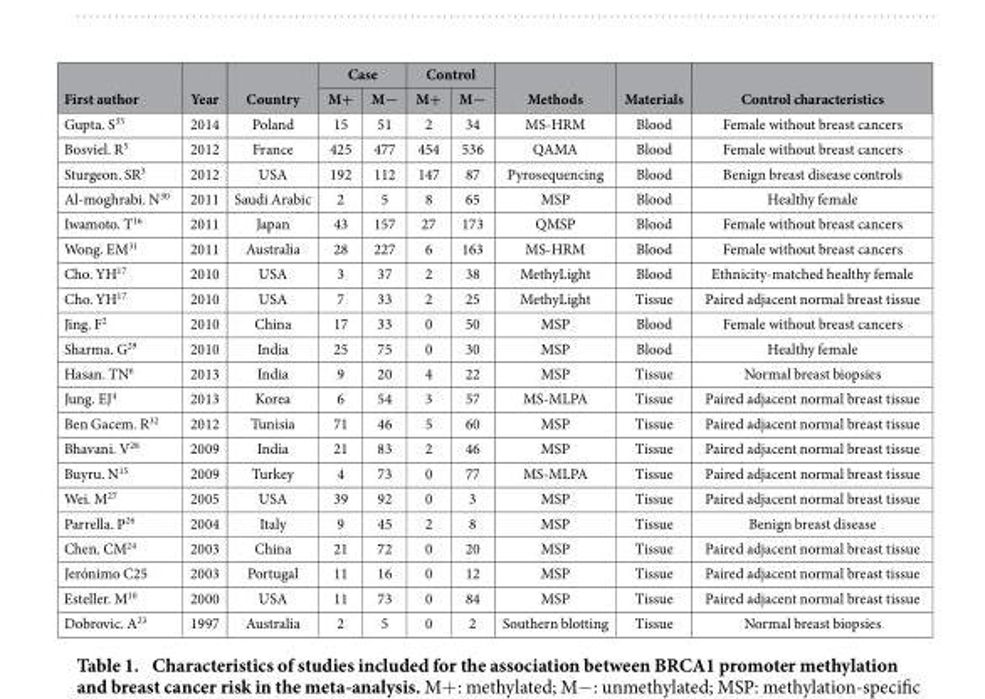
<table><thead><tr><td rowspan="2">First author</td><td rowspan="2">Year</td><td rowspan="2">Country</td><td colspan="2">Case</td><td colspan="2">Control</td><td rowspan="2">Methods</td><td rowspan="2">Materials</td><td rowspan="2">Control characteristics</td></tr><tr><td>M+</td><td>M−</td><td>M+</td><td>M−</td></tr></thead><tbody><tr><td>Gupta. S<sup>33</sup></td><td>2014</td><td>Poland</td><td>15</td><td>51</td><td>2</td><td>34</td><td>MS-HRM</td><td>Blood</td><td>Female without breast cancers</td></tr><tr><td>Bosviel. R<sup>5</sup></td><td>2012</td><td>France</td><td>425</td><td>477</td><td>454</td><td>536</td><td>QAMA</td><td>Blood</td><td>Female without breast cancers</td></tr><tr><td>Sturgeon. SR<sup>3</sup></td><td>2012</td><td>USA</td><td>192</td><td>112</td><td>147</td><td>87</td><td>Pyrosequencing</td><td>Blood</td><td>Benign breast disease controls</td></tr><tr><td>Al-moghrabi. N<sup>30</sup></td><td>2011</td><td>Saudi Arabic</td><td>2</td><td>5</td><td>8</td><td>65</td><td>MSP</td><td>Blood</td><td>Healthy female</td></tr><tr><td>Iwamoto. T<sup>16</sup></td><td>2011</td><td>Japan</td><td>43</td><td>157</td><td>27</td><td>173</td><td>QMSP</td><td>Blood</td><td>Female without breast cancers</td></tr><tr><td>Wong. EM<sup>31</sup></td><td>2011</td><td>Australia</td><td>28</td><td>227</td><td>6</td><td>163</td><td>MS-HRM</td><td>Blood</td><td>Female without breast cancers</td></tr><tr><td>Cho. YH<sup>17</sup></td><td>2010</td><td>USA</td><td>3</td><td>37</td><td>2</td><td>38</td><td>MethyLight</td><td>Blood</td><td>Ethnicity-matched healthy female</td></tr><tr><td>Cho. YH<sup>17</sup></td><td>2010</td><td>USA</td><td>7</td><td>33</td><td>2</td><td>25</td><td>MethyLight</td><td>Tissue</td><td>Paired adjacent normal breast tissue</td></tr><tr><td>Jing. F<sup>2</sup></td><td>2010</td><td>China</td><td>17</td><td>33</td><td>0</td><td>50</td><td>MSP</td><td>Blood</td><td>Female without breast cancers</td></tr><tr><td>Sharma. G<sup>29</sup></td><td>2010</td><td>India</td><td>25</td><td>75</td><td>0</td><td>30</td><td>MSP</td><td>Blood</td><td>Healthy female</td></tr><tr><td>Hasan. TN<sup>6</sup></td><td>2013</td><td>India</td><td>9</td><td>20</td><td>4</td><td>22</td><td>MSP</td><td>Tissue</td><td>Normal breast biopsies</td></tr><tr><td>Jung. EJ<sup>4</sup></td><td>2013</td><td>Korea</td><td>6</td><td>54</td><td>3</td><td>57</td><td>MS-MLPA</td><td>Tissue</td><td>Paired adjacent normal breast tissue</td></tr><tr><td>Ben Gacem. R<sup>32</sup></td><td>2012</td><td>Tunisia</td><td>71</td><td>46</td><td>5</td><td>60</td><td>MSP</td><td>Tissue</td><td>Paired adjacent normal breast tissue</td></tr><tr><td>Bhavani. V<sup>28</sup></td><td>2009</td><td>India</td><td>21</td><td>83</td><td>2</td><td>46</td><td>MSP</td><td>Tissue</td><td>Paired adjacent normal breast tissue</td></tr><tr><td>Buyru. N<sup>15</sup></td><td>2009</td><td>Turkey</td><td>4</td><td>73</td><td>0</td><td>77</td><td>MS-MLPA</td><td>Tissue</td><td>Paired adjacent normal breast tissue</td></tr><tr><td>Wei. M<sup>27</sup></td><td>2005</td><td>USA</td><td>39</td><td>92</td><td>0</td><td>3</td><td>MSP</td><td>Tissue</td><td>Paired adjacent normal breast tissue</td></tr><tr><td>Parrella. P<sup>26</sup></td><td>2004</td><td>Italy</td><td>9</td><td>45</td><td>2</td><td>8</td><td>MSP</td><td>Tissue</td><td>Benign breast disease</td></tr><tr><td>Chen. CM<sup>24</sup></td><td>2003</td><td>China</td><td>21</td><td>72</td><td>0</td><td>20</td><td>MSP</td><td>Tissue</td><td>Paired adjacent normal breast tissue</td></tr><tr><td>Jerónimo C<sup>25</sup></td><td>2003</td><td>Portugal</td><td>11</td><td>16</td><td>0</td><td>12</td><td>MSP</td><td>Tissue</td><td>Paired adjacent normal breast tissue</td></tr><tr><td>Esteller. M<sup>10</sup></td><td>2000</td><td>USA</td><td>11</td><td>73</td><td>0</td><td>84</td><td>MSP</td><td>Tissue</td><td>Paired adjacent normal breast tissue</td></tr><tr><td>Dobrovic. A<sup>23</sup></td><td>1997</td><td>Australia</td><td>2</td><td>5</td><td>0</td><td>2</td><td>Southern blotting</td><td>Tissue</td><td>Normal breast biopsies</td></tr></tbody></table>